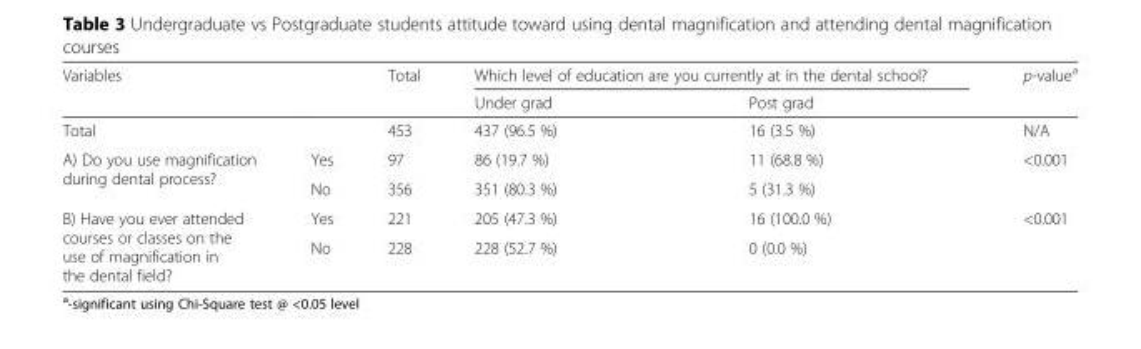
<table><thead><tr><td rowspan="2">Variables</td><td rowspan="2"></td><td rowspan="2">Total</td><td colspan="2">Which level of education are you currently at in the dental school?</td><td rowspan="2">p-value<sup>a</sup></td></tr><tr><td>Under grad</td><td>Post grad</td></tr></thead><tbody><tr><td>Total</td><td></td><td>453</td><td>437 (96.5 %)</td><td>16 (3.5 %)</td><td>N/A</td></tr><tr><td rowspan="2">A) Do you use magnification during dental process?</td><td>Yes</td><td>97</td><td>86 (19.7 %)</td><td>11 (68.8 %)</td><td rowspan="2">&lt;0.001</td></tr><tr><td>No</td><td>356</td><td>351 (80.3 %)</td><td>5 (31.3 %)</td></tr><tr><td rowspan="2">B) Have you ever attended courses or classes on the use of magnification in the dental field?</td><td>Yes</td><td>221</td><td>205 (47.3 %)</td><td>16 (100.0 %)</td><td rowspan="2">&lt;0.001</td></tr><tr><td>No</td><td>228</td><td>228 (52.7 %)</td><td>0 (0.0 %)</td></tr></tbody></table>